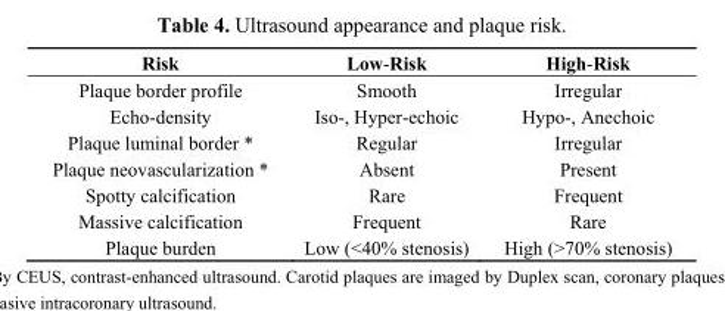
<table><thead><tr><td>Risk</td><td>Low-Risk</td><td>High-Risk</td></tr></thead><tbody><tr><td>Plaque border profile</td><td>Smooth</td><td>Irregular</td></tr><tr><td>Echo-density</td><td>Iso-, Hyper-echoic</td><td>Hypo-, Anechoic</td></tr><tr><td>Plaque luminal border *</td><td>Regular</td><td>Irregular</td></tr><tr><td>Plaque neovascularization *</td><td>Absent</td><td>Present</td></tr><tr><td>Spotty calcification</td><td>Rare</td><td>Frequent</td></tr><tr><td>Massive calcification</td><td>Frequent</td><td>Rare</td></tr><tr><td>Plaque burden</td><td>Low (&lt;40% stenosis)</td><td>High (&gt;70% stenosis)</td></tr></tbody></table>